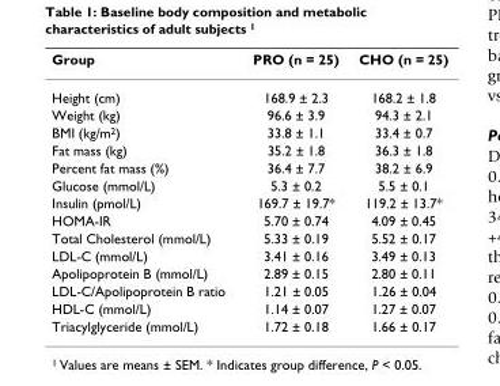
<table><thead><tr><td>Group</td><td>PRO (n = 25)</td><td>CHO (n = 25)</td></tr></thead><tbody><tr><td>Height (cm)</td><td>168.9 ± 2.3</td><td>168.2 ± 1.8</td></tr><tr><td>Weight (kg)</td><td>96.6 ± 3.9</td><td>94.3 ± 2.1</td></tr><tr><td>BMI (kg/m<sup>2</sup>)</td><td>33.8 ± 1.1</td><td>33.4 ± 0.7</td></tr><tr><td>Fat mass (kg)</td><td>35.2 ± 1.8</td><td>36.3 ± 1.8</td></tr><tr><td>Percent fat mass (%)</td><td>36.4 ± 7.7</td><td>38.2 ± 6.9</td></tr><tr><td>Glucose (mmol/L)</td><td>5.3 ± 0.2</td><td>5.5 ± 0.1</td></tr><tr><td>Insulin (pmol/L)</td><td>169.7 ± 19.7*</td><td>119.2 ± 13.7*</td></tr><tr><td>HOMA-IR</td><td>5.70 ± 0.74</td><td>4.09 ± 0.45</td></tr><tr><td>Total Cholesterol (mmol/L)</td><td>5.33 ± 0.19</td><td>5.52 ± 0.17</td></tr><tr><td>LDL-C (mmol/L)</td><td>3.41 ± 0.16</td><td>3.49 ± 0.13</td></tr><tr><td>Apolipoprotein B (mmol/L)</td><td>2.89 ± 0.15</td><td>2.80 ± 0.11</td></tr><tr><td>LDL-C/Apolipoprotein B ratio</td><td>1.21 ± 0.05</td><td>1.26 ± 0.04</td></tr><tr><td>HDL-C (mmol/L)</td><td>1.14 ± 0.07</td><td>1.27 ± 0.07</td></tr><tr><td>Triacylglyceride (mmol/L)</td><td>1.72 ± 0.18</td><td>1.66 ± 0.17</td></tr></tbody></table>